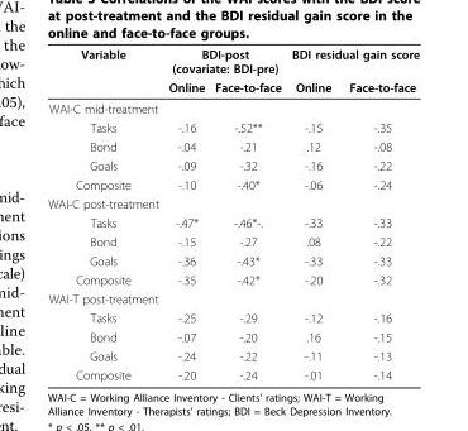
<table><thead><tr><td rowspan="2">Variable</td><td colspan="2">BDI-post (covariate: BDI-pre)</td><td colspan="2">BDI residual gain score</td></tr><tr><td>Online</td><td>Face-to-face</td><td>Online</td><td>Face-to-face</td></tr></thead><tbody><tr><td colspan="5">WAI-C mid-treatment</td></tr><tr><td>Tasks</td><td>-.16</td><td>-.52**</td><td>-.15</td><td>-.35</td></tr><tr><td>Bond</td><td>-.04</td><td>-.21</td><td>.12</td><td>-.08</td></tr><tr><td>Goals</td><td>-.09</td><td>-.32</td><td>-.16</td><td>-.22</td></tr><tr><td>Composite</td><td>-.10</td><td>-.40*</td><td>-.06</td><td>-.24</td></tr><tr><td colspan="5">WAI-C post-treatment</td></tr><tr><td>Tasks</td><td>-.47*</td><td>-.46*-.</td><td>-.33</td><td>-.33</td></tr><tr><td>Bond</td><td>-.15</td><td>-.27</td><td>.08</td><td>-.22</td></tr><tr><td>Goals</td><td>-.36</td><td>-.43*</td><td>-.33</td><td>-.33</td></tr><tr><td>Composite</td><td>-.35</td><td>-.42*</td><td>-.20</td><td>-.32</td></tr><tr><td colspan="5">WAI-T post-treatment</td></tr><tr><td>Tasks</td><td>-.25</td><td>-.29</td><td>-.12</td><td>-.16</td></tr><tr><td>Bond</td><td>-.07</td><td>-.20</td><td>.16</td><td>-.15</td></tr><tr><td>Goals</td><td>-.24</td><td>-.22</td><td>-.11</td><td>-.13</td></tr><tr><td>Composite</td><td>-.20</td><td>-.24</td><td>-.01</td><td>-.14</td></tr></tbody></table>